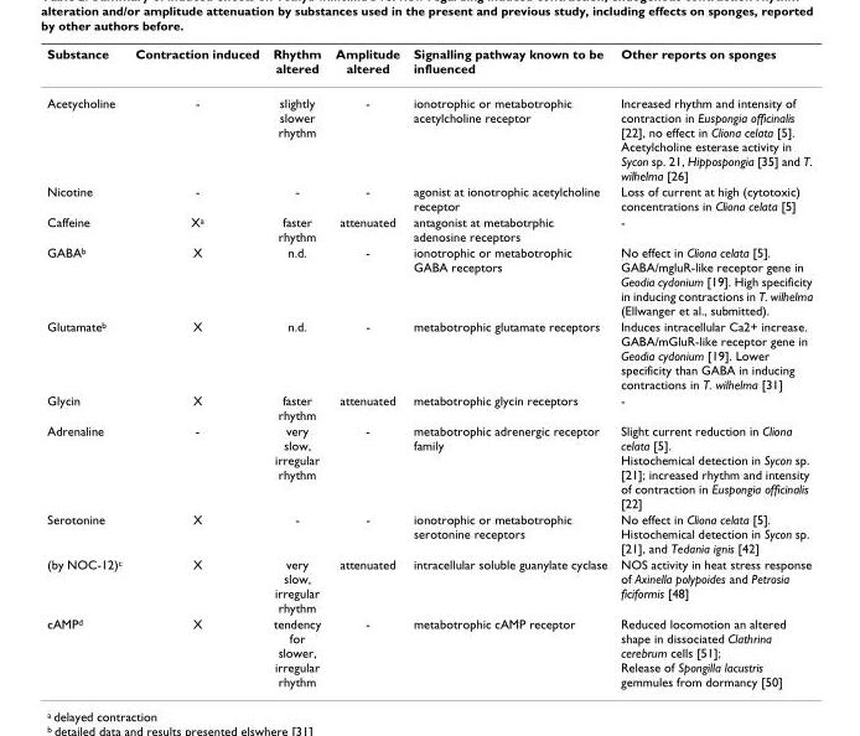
<table><thead><tr><td>Substance</td><td>Contraction induced</td><td>Rhythm altered</td><td>Amplitude altered</td><td>Signalling pathway known to be influenced</td><td>Other reports on sponges</td></tr></thead><tbody><tr><td>Acetycholine</td><td>-</td><td>slightly slower rhythm</td><td>-</td><td>ionotrophic or metabotrophic acetylcholine receptor</td><td>Increased rhythm and intensity of contraction in Euspongia officinalis [22], no effect in Cliona celata [5]. Acetylcholine esterase activity in Sycon sp. 21, Hippospongia [35] and T. wilhelma [26]</td></tr><tr><td>Nicotine</td><td>-</td><td>-</td><td>-</td><td>agonist at ionotrophic acetylcholine receptor</td><td>Loss of current at high (cytotoxic) concentrations in Cliona celata [5]</td></tr><tr><td>Caffeine</td><td>X<sup>a</sup></td><td>faster rhythm</td><td>attenuated</td><td>antagonist at metabotrphic adenosine receptors</td><td>-</td></tr><tr><td>GABA<sup>b</sup></td><td>X</td><td>n.d.</td><td>-</td><td>ionotrophic or metabotrophic GABA receptors</td><td>No effect in Cliona celata [5]. GABA/mgluR-like receptor gene in Geodia cydonium [19]. High specificity in inducing contractions in T. wilhelma (Ellwanger et al., submitted).</td></tr><tr><td>Glutamate<sup>b</sup></td><td>X</td><td>n.d.</td><td>-</td><td>metabotrophic glutamate receptors</td><td>Induces intracellular Ca2+ increase. GABA/mGluR-like receptor gene in Geodia cydonium [19]. Lower specificity than GABA in inducing contractions in T. wilhelma [31]</td></tr><tr><td>Glycin</td><td>X</td><td>faster rhythm</td><td>attenuated</td><td>metabotrophic glycin receptors</td><td>-</td></tr><tr><td>Adrenaline</td><td>-</td><td>very slow, irregular rhythm</td><td>-</td><td>metabotrophic adrenergic receptor family</td><td>Slight current reduction in Cliona celata [5]. Histochemical detection in Sycon sp. [21]; increased rhythm and intensity of contraction in Euspongia officinalis [22]</td></tr><tr><td>Serotonine</td><td>X</td><td>-</td><td>-</td><td>ionotrophic or metabotrophic serotonine receptors</td><td>No effect in Cliona celata [5]. Histochemical detection in Sycon sp. [21], and Tedania ignis [42]</td></tr><tr><td>(by NOC-12)<sup>c</sup></td><td>X</td><td>very slow, irregular rhythm</td><td>attenuated</td><td>intracellular soluble guanylate cyclase</td><td>NOS activity in heat stress response of Axinella polypoides and Petrosia ficiformis [48]</td></tr><tr><td>cAMP<sup>d</sup></td><td>X</td><td>tendency for slower, irregular rhythm</td><td>-</td><td>metabotrophic cAMP receptor</td><td>Reduced locomotion an altered shape in dissociated Clathrina cerebrum cells [51]; Release of Spongilla lacustris gemmules from dormancy [50]</td></tr></tbody></table>